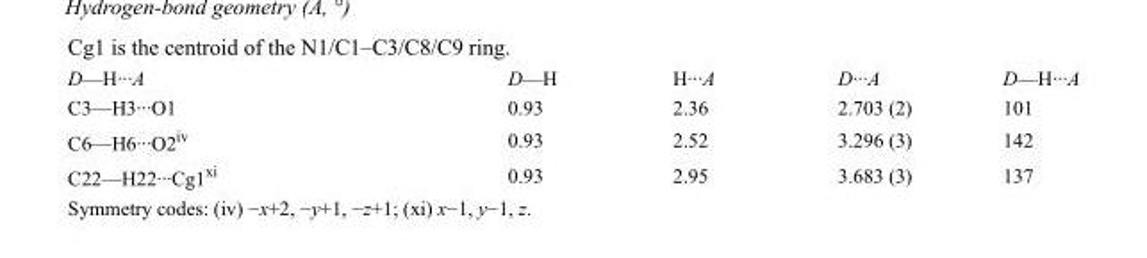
<table><tbody><tr><td>D—H···A</td><td>D—H</td><td>H···A</td><td>D···A</td><td>D—H···A</td></tr><tr><td>C3—H3···O1</td><td>0.93</td><td>2.36</td><td>2.703 (2)</td><td>101</td></tr><tr><td>C6—H6···O2<sup>iv</sup></td><td>0.93</td><td>2.52</td><td>3.296 (3)</td><td>142</td></tr><tr><td>C22—H22···Cg1<sup>xi</sup></td><td>0.93</td><td>2.95</td><td>3.683 (3)</td><td>137</td></tr></tbody></table>